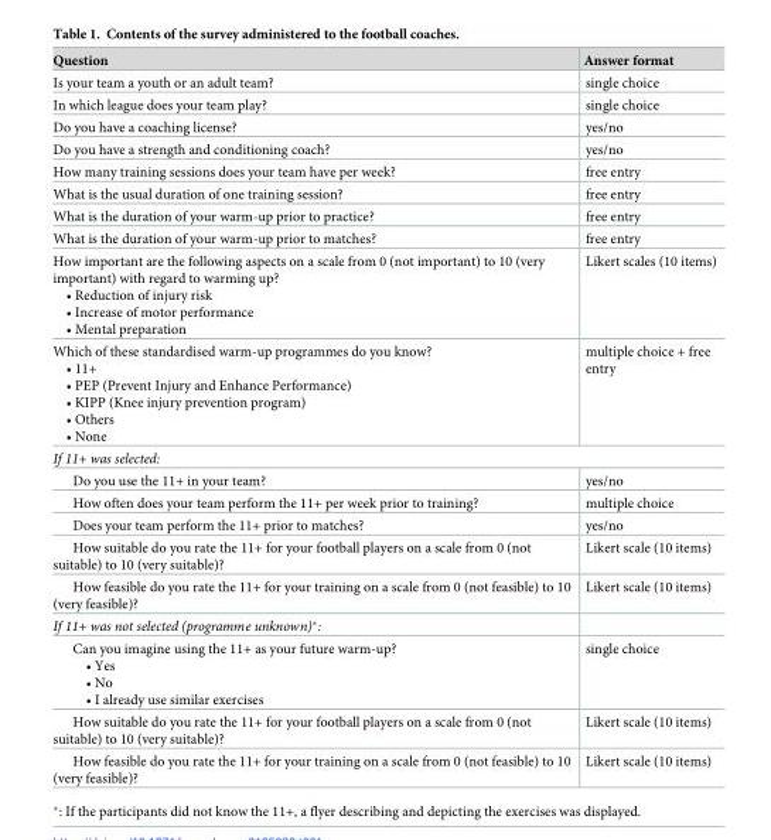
<table><thead><tr><td>Question</td><td>Answer format</td></tr></thead><tbody><tr><td>Is your team a youth or an adult team?</td><td>single choice</td></tr><tr><td>In which league does your team play?</td><td>single choice</td></tr><tr><td>Do you have a coaching license?</td><td>yes/no</td></tr><tr><td>Do you have a strength and conditioning coach?</td><td>yes/no</td></tr><tr><td>How many training sessions does your team have per week?</td><td>free entry</td></tr><tr><td>What is the usual duration of one training session?</td><td>free entry</td></tr><tr><td>What is the duration of your warm-up prior to practice?</td><td>free entry</td></tr><tr><td>What is the duration of your warm-up prior to matches?</td><td>free entry</td></tr><tr><td>How important are the following aspects on a scale from 0 (not important) to 10 (very important) with regard to warming up? • Reduction of injury risk • Increase of motor performance • Mental preparation</td><td>Likert scales (10 items)</td></tr><tr><td>Which of these standardised warm-up programmes do you know? • 11+ • PEP (Prevent Injury and Enhance Performance) • KIPP (Knee injury prevention program) • Others • None</td><td>multiple choice + free entry</td></tr><tr><td colspan="2">If 11+ was selected:</td></tr><tr><td>Do you use the 11+ in your team?</td><td>yes/no</td></tr><tr><td>How often does your team perform the 11+ per week prior to training?</td><td>multiple choice</td></tr><tr><td>Does your team perform the 11+ prior to matches?</td><td>yes/no</td></tr><tr><td>How suitable do you rate the 11+ for your football players on a scale from 0 (not suitable) to 10 (very suitable)?</td><td>Likert scale (10 items)</td></tr><tr><td>How feasible do you rate the 11+ for your training on a scale from 0 (not feasible) to 10 (very feasible)?</td><td>Likert scale (10 items)</td></tr><tr><td colspan="2">If 11+ was not selected (programme unknown)*:</td></tr><tr><td>Can you imagine using the 11+ as your future warm-up? • Yes • No • I already use similar exercises</td><td>single choice</td></tr><tr><td>How suitable do you rate the 11+ for your football players on a scale from 0 (not suitable) to 10 (very suitable)?</td><td>Likert scale (10 items)</td></tr><tr><td>How feasible do you rate the 11+ for your training on a scale from 0 (not feasible) to 10 (very feasible)?</td><td>Likert scale (10 items)</td></tr></tbody></table>